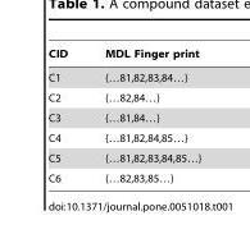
<table><thead><tr><td>CID</td><td>MDL Finger print</td></tr></thead><tbody><tr><td>C1</td><td>{…81,82,83,84…}</td></tr><tr><td>C2</td><td>{…82,84…}</td></tr><tr><td>C3</td><td>{…81,84…}</td></tr><tr><td>C4</td><td>{…81,82,84,85…}</td></tr><tr><td>C5</td><td>{…81,82,83,84,85…}</td></tr><tr><td>C6</td><td>{…82,83,85…}</td></tr></tbody></table>